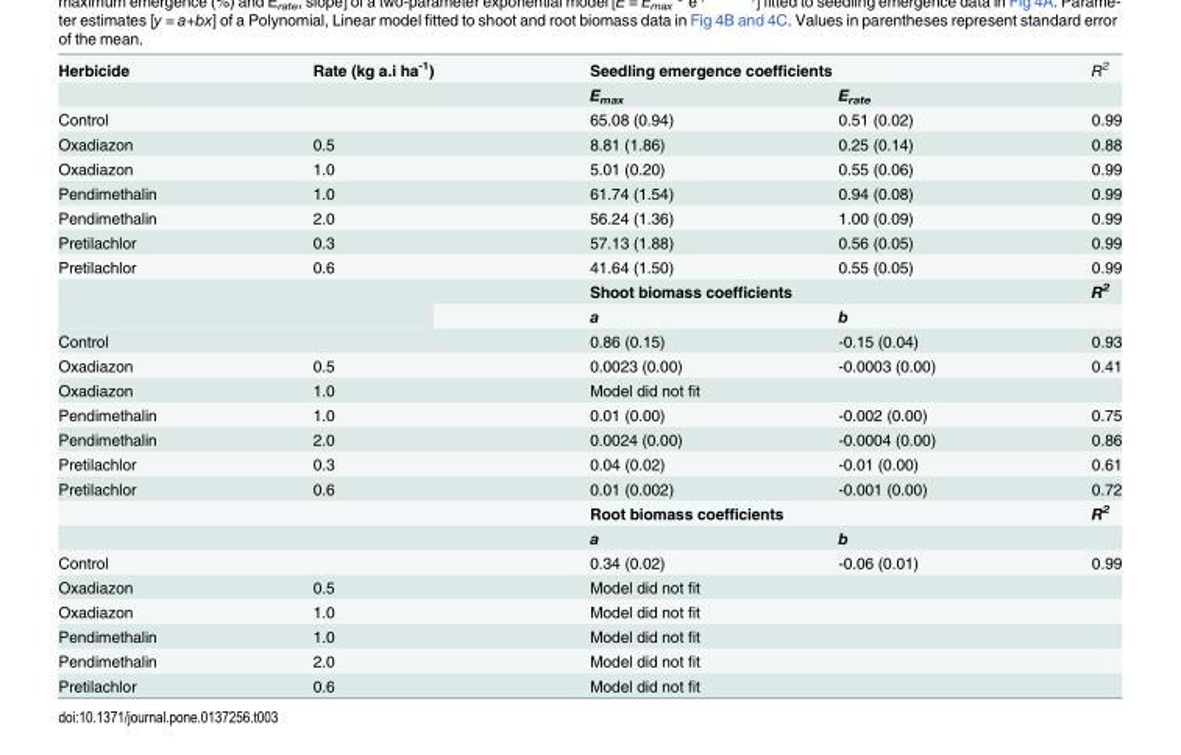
<table><tbody><tr><td rowspan="2">Herbicide</td><td>Rate (kg a.i ha<sup>-1</sup>)</td><td colspan="2">Seedling emergence coefficients</td><td>R<sup>2</sup></td></tr><tr><td></td><td>E<sub>max</sub></td><td>E<sub>rate</sub></td><td></td></tr><tr><td>Control</td><td></td><td>65.08 (0.94)</td><td>0.51 (0.02)</td><td>0.99</td></tr><tr><td>Oxadiazon</td><td>0.5</td><td>8.81 (1.86)</td><td>0.25 (0.14)</td><td>0.88</td></tr><tr><td>Oxadiazon</td><td>1.0</td><td>5.01 (0.20)</td><td>0.55 (0.06)</td><td>0.99</td></tr><tr><td>Pendimethalin</td><td>1.0</td><td>61.74 (1.54)</td><td>0.94 (0.08)</td><td>0.99</td></tr><tr><td>Pendimethalin</td><td>2.0</td><td>56.24 (1.36)</td><td>1.00 (0.09)</td><td>0.99</td></tr><tr><td>Pretilachlor</td><td>0.3</td><td>57.13 (1.88)</td><td>0.56 (0.05)</td><td>0.99</td></tr><tr><td rowspan="3">Pretilachlor</td><td>0.6</td><td>41.64 (1.50)</td><td>0.55 (0.05)</td><td>0.99</td></tr><tr><td rowspan="2"></td><td colspan="2">Shoot biomass coefficients</td><td>R<sup>2</sup></td></tr><tr><td>a</td><td>b</td><td></td></tr><tr><td>Control</td><td></td><td>0.86 (0.15)</td><td>-0.15 (0.04)</td><td>0.93</td></tr><tr><td>Oxadiazon</td><td>0.5</td><td>0.0023 (0.00)</td><td>-0.0003 (0.00)</td><td>0.41</td></tr><tr><td>Oxadiazon</td><td>1.0</td><td colspan="3">Model did not fit</td></tr><tr><td>Pendimethalin</td><td>1.0</td><td>0.01 (0.00)</td><td>-0.002 (0.00)</td><td>0.75</td></tr><tr><td>Pendimethalin</td><td>2.0</td><td>0.0024 (0.00)</td><td>-0.0004 (0.00)</td><td>0.86</td></tr><tr><td>Pretilachlor</td><td>0.3</td><td>0.04 (0.02)</td><td>-0.01 (0.00)</td><td>0.61</td></tr><tr><td rowspan="3">Pretilachlor</td><td>0.6</td><td>0.01 (0.002)</td><td>-0.001 (0.00)</td><td>0.72</td></tr><tr><td></td><td colspan="2">Root biomass coefficients</td><td>R<sup>2</sup></td></tr><tr><td></td><td>a</td><td>b</td><td></td></tr><tr><td>Control</td><td></td><td>0.34 (0.02)</td><td>-0.06 (0.01)</td><td>0.99</td></tr><tr><td>Oxadiazon</td><td>0.5</td><td colspan="3">Model did not fit</td></tr><tr><td>Oxadiazon</td><td>1.0</td><td colspan="3">Model did not fit</td></tr><tr><td>Pendimethalin</td><td>1.0</td><td colspan="3">Model did not fit</td></tr><tr><td>Pendimethalin</td><td>2.0</td><td colspan="3">Model did not fit</td></tr><tr><td>Pretilachlor</td><td>0.6</td><td colspan="3">Model did not fit</td></tr></tbody></table>